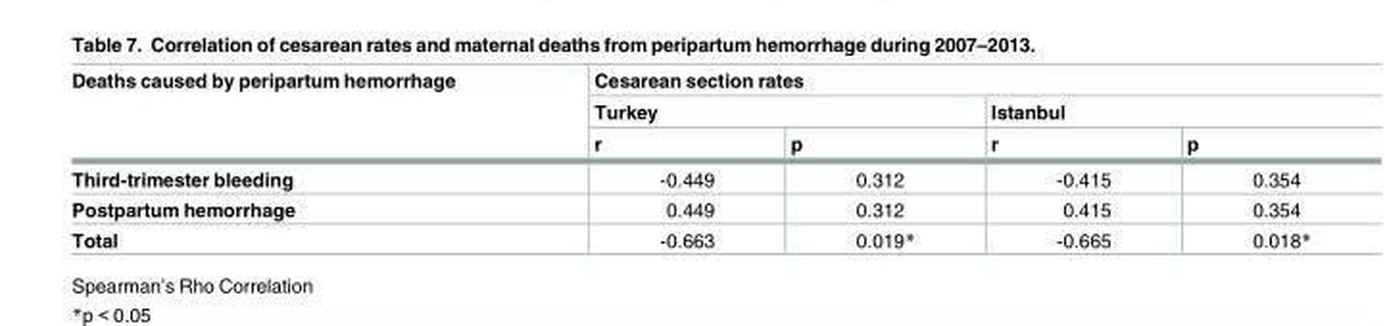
<table><thead><tr><td rowspan="3">Deaths caused by peripartum hemorrhage</td><td colspan="4">Cesarean section rates</td></tr><tr><td colspan="2">Turkey</td><td colspan="2">Istanbul</td></tr><tr><td>r</td><td>p</td><td>r</td><td>p</td></tr></thead><tbody><tr><td>Third-trimester bleeding</td><td>-0.449</td><td>0.312</td><td>-0.415</td><td>0.354</td></tr><tr><td>Postpartum hemorrhage</td><td>0.449</td><td>0.312</td><td>0.415</td><td>0.354</td></tr><tr><td>Total</td><td>-0.663</td><td>0.019*</td><td>-0.665</td><td>0.018*</td></tr></tbody></table>